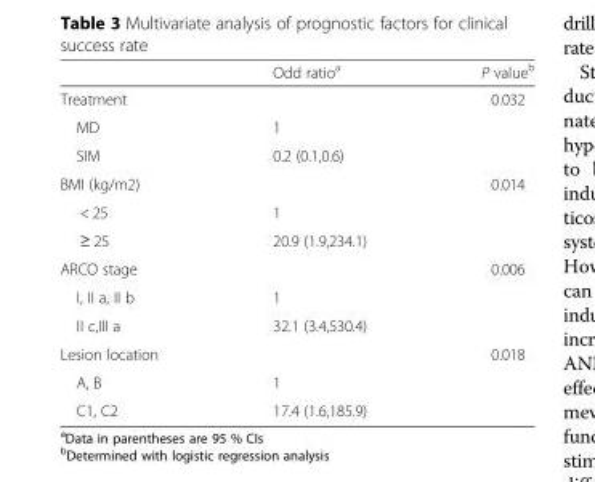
<table><thead><tr><td></td><td>Odd ratio<sup>a</sup></td><td>P value<sup>b</sup></td></tr></thead><tbody><tr><td colspan="2">Treatment</td><td rowspan="3">0.032</td></tr><tr><td>MD</td><td>1</td></tr><tr><td>SIM</td><td>0.2 (0.1,0.6)</td></tr><tr><td colspan="2">BMI (kg/m2)</td><td rowspan="3">0.014</td></tr><tr><td>&lt; 25</td><td>1</td></tr><tr><td>≥ 25</td><td>20.9 (1.9,234.1)</td></tr><tr><td colspan="2">ARCO stage</td><td rowspan="3">0.006</td></tr><tr><td>I, II a, II b</td><td>1</td></tr><tr><td>II c,III a</td><td>32.1 (3.4,530.4)</td></tr><tr><td colspan="2">Lesion location</td><td rowspan="3">0.018</td></tr><tr><td>A, B</td><td>1</td></tr><tr><td>C1, C2</td><td>17.4 (1.6,185.9)</td></tr></tbody></table>